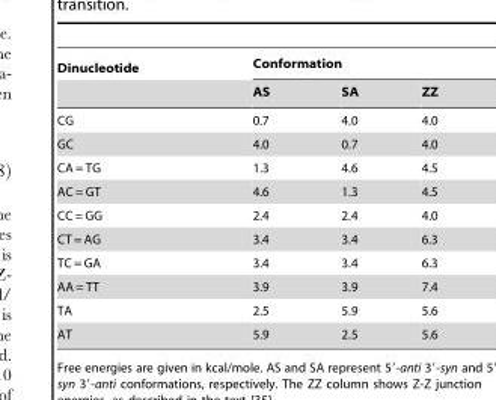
<table><thead><tr><td rowspan="2">Dinucleotide</td><td colspan="3">Conformation</td></tr><tr><td>AS</td><td>SA</td><td>ZZ</td></tr></thead><tbody><tr><td>CG</td><td>0.7</td><td>4.0</td><td>4.0</td></tr><tr><td>GC</td><td>4.0</td><td>0.7</td><td>4.0</td></tr><tr><td>CA = TG</td><td>1.3</td><td>4.6</td><td>4.5</td></tr><tr><td>AC = GT</td><td>4.6</td><td>1.3</td><td>4.5</td></tr><tr><td>CC = GG</td><td>2.4</td><td>2.4</td><td>4.0</td></tr><tr><td>CT = AG</td><td>3.4</td><td>3.4</td><td>6.3</td></tr><tr><td>TC = GA</td><td>3.4</td><td>3.4</td><td>6.3</td></tr><tr><td>AA = TT</td><td>3.9</td><td>3.9</td><td>7.4</td></tr><tr><td>TA</td><td>2.5</td><td>5.9</td><td>5.6</td></tr><tr><td>AT</td><td>5.9</td><td>2.5</td><td>5.6</td></tr></tbody></table>